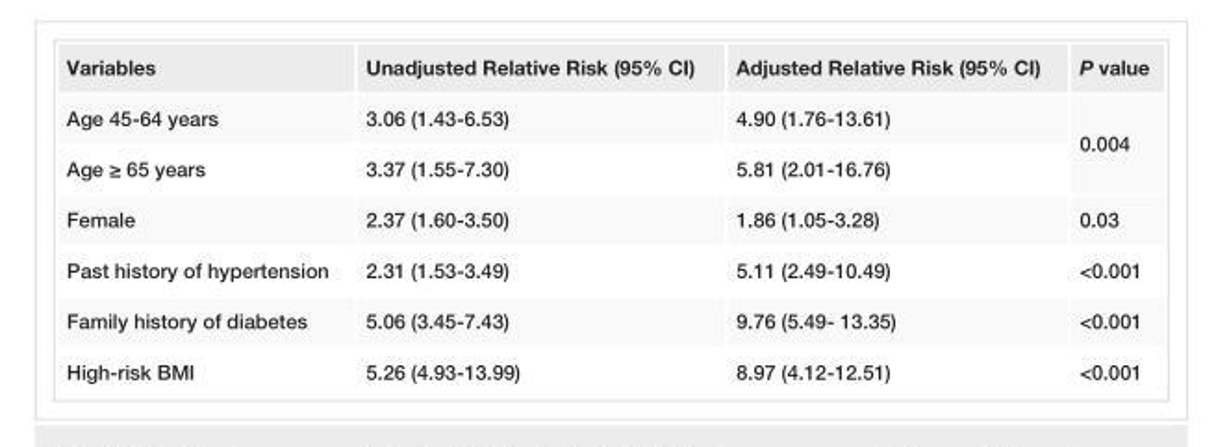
<table><tbody><tr><td>Variables</td><td>Unadjusted Relative Risk (95% CI)</td><td>Adjusted Relative Risk (95% CI)</td><td>P value</td></tr><tr><td>Age 45-64 years</td><td>3.06 (1.43-6.53)</td><td>4.90 (1.76-13.61)</td><td rowspan="2">0.004</td></tr><tr><td>Age ≥ 65 years</td><td>3.37 (1.55-7.30)</td><td>5.81 (2.01-16.76)</td></tr><tr><td>Female</td><td>2.37 (1.60-3.50)</td><td>1.86 (1.05-3.28)</td><td>0.03</td></tr><tr><td>Past history of hypertension</td><td>2.31 (1.53-3.49)</td><td>5.11 (2.49-10.49)</td><td>&lt;0.001</td></tr><tr><td>Family history of diabetes</td><td>5.06 (3.45-7.43)</td><td>9.76 (5.49- 13.35)</td><td>&lt;0.001</td></tr><tr><td>High-risk BMI</td><td>5.26 (4.93-13.99)</td><td>8.97 (4.12-12.51)</td><td>&lt;0.001</td></tr></tbody></table>